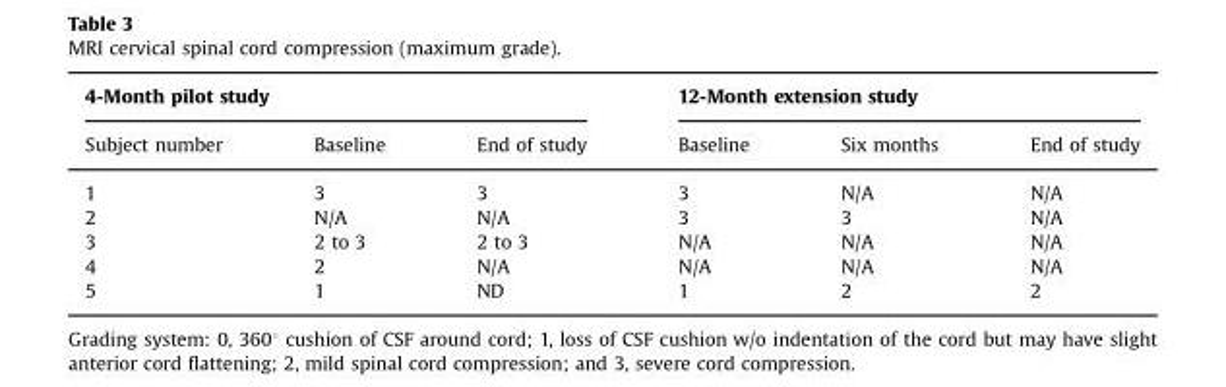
<table><thead><tr><td colspan="3">4-Month pilot study</td><td colspan="3">12-Month extension study</td></tr><tr><td>Subject number</td><td>Baseline</td><td>End of study</td><td>Baseline</td><td>Six months</td><td>End of study</td></tr></thead><tbody><tr><td>1</td><td>3</td><td>3</td><td>3</td><td>N/A</td><td>N/A</td></tr><tr><td>2</td><td>N/A</td><td>N/A</td><td>3</td><td>3</td><td>N/A</td></tr><tr><td>3</td><td>2 to 3</td><td>2 to 3</td><td>N/A</td><td>N/A</td><td>N/A</td></tr><tr><td>4</td><td>2</td><td>N/A</td><td>N/A</td><td>N/A</td><td>N/A</td></tr><tr><td>5</td><td>1</td><td>ND</td><td>1</td><td>2</td><td>2</td></tr></tbody></table>